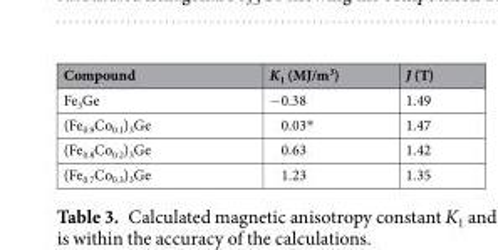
<table><thead><tr><td>Compound</td><td>K<sub>1</sub> (MJ/m<sup>3</sup>)</td><td>J (T)</td></tr></thead><tbody><tr><td>Fe<sub>3</sub>Ge</td><td>−0.38</td><td>1.49</td></tr><tr><td>(Fe<sub>0.9</sub>Co<sub>0.1</sub>)<sub>3</sub>Ge</td><td>0.03*</td><td>1.47</td></tr><tr><td>(Fe<sub>0.8</sub>Co<sub>0.2</sub>)<sub>3</sub>Ge</td><td>0.63</td><td>1.42</td></tr><tr><td>(Fe<sub>0.7</sub>Co<sub>0.3</sub>)<sub>3</sub>Ge</td><td>1.23</td><td>1.35</td></tr></tbody></table>